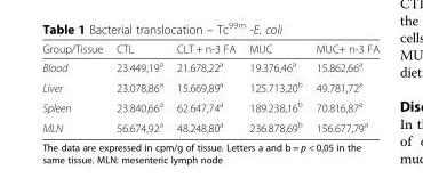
<table><thead><tr><td>Group/Tissue</td><td>CTL</td><td>CLT + n-3 FA</td><td>MUC</td><td>MUC+ n-3 FA</td></tr></thead><tbody><tr><td>Blood</td><td>23.449,19<sup>a</sup></td><td>21.678,22<sup>a</sup></td><td>19.376,46<sup>a</sup></td><td>15.862,66<sup>a</sup></td></tr><tr><td>Liver</td><td>23.078,86<sup>a</sup></td><td>15.669,89<sup>a</sup></td><td>125.713,20<sup>b</sup></td><td>49.781,72<sup>a</sup></td></tr><tr><td>Spleen</td><td>23.840,66<sup>a</sup></td><td>62.647,74<sup>a</sup></td><td>189.238,16<sup>b</sup></td><td>70.816,87<sup>a</sup></td></tr><tr><td>MLN</td><td>56.674,92<sup>a</sup></td><td>48.248,80<sup>a</sup></td><td>236.878,69<sup>b</sup></td><td>156.677,79<sup>a</sup></td></tr></tbody></table>